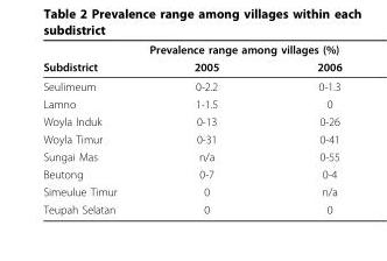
<table><thead><tr><td rowspan="2">Subdistrict</td><td colspan="2">Prevalence range among villages (%)</td></tr><tr><td>2005</td><td>2006</td></tr></thead><tbody><tr><td>Seulimeum</td><td>0-2.2</td><td>0-1.3</td></tr><tr><td>Lamno</td><td>1-1.5</td><td>0</td></tr><tr><td>Woyla Induk</td><td>0-13</td><td>0-26</td></tr><tr><td>Woyla Timur</td><td>0-31</td><td>0-41</td></tr><tr><td>Sungai Mas</td><td>n/a</td><td>0-55</td></tr><tr><td>Beutong</td><td>0-7</td><td>0-4</td></tr><tr><td>Simeulue Timur</td><td>0</td><td>n/a</td></tr><tr><td>Teupah Selatan</td><td>0</td><td>0</td></tr></tbody></table>